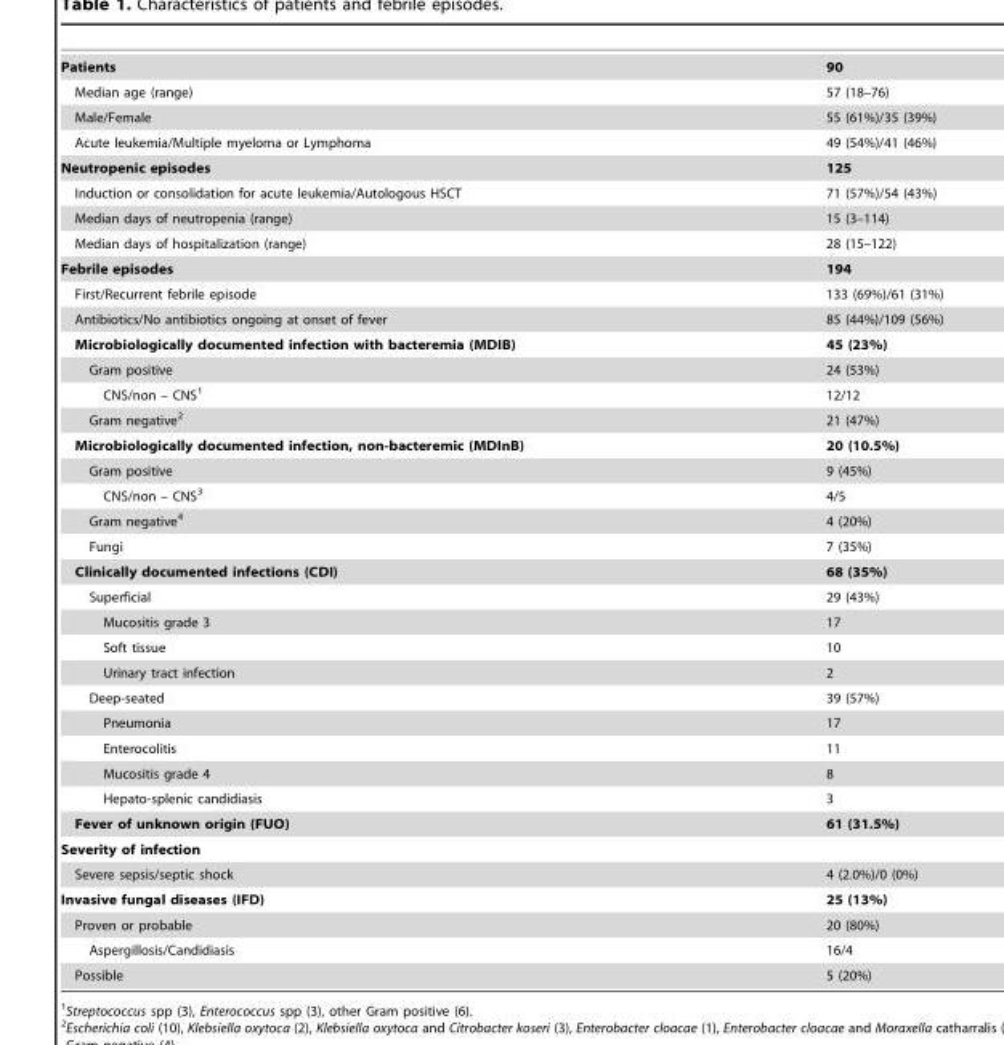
<table><tbody><tr><td>Patients</td><td>90</td></tr><tr><td>Median age (range)</td><td>57 (18–76)</td></tr><tr><td>Male/Female</td><td>55 (61%)/35 (39%)</td></tr><tr><td>Acute leukemia/Multiple myeloma or Lymphoma</td><td>49 (54%)/41 (46%)</td></tr><tr><td>Neutropenic episodes</td><td>125</td></tr><tr><td>Induction or consolidation for acute leukemia/Autologous HSCT</td><td>71 (57%)/54 (43%)</td></tr><tr><td>Median days of neutropenia (range)</td><td>15 (3–114)</td></tr><tr><td>Median days of hospitalization (range)</td><td>28 (15–122)</td></tr><tr><td>Febrile episodes</td><td>194</td></tr><tr><td>First/Recurrent febrile episode</td><td>133 (69%)/61 (31%)</td></tr><tr><td>Antibiotics/No antibiotics ongoing at onset of fever</td><td>85 (44%)/109 (56%)</td></tr><tr><td>Microbiologically documented infection with bacteremia (MDIB)</td><td>45 (23%)</td></tr><tr><td>Gram positive</td><td>24 (53%)</td></tr><tr><td>CNS/non – CNS<sup>1</sup></td><td>12/12</td></tr><tr><td>Gram negative<sup>2</sup></td><td>21 (47%)</td></tr><tr><td>Microbiologically documented infection, non-bacteremic (MDInB)</td><td>20 (10.5%)</td></tr><tr><td>Gram positive</td><td>9 (45%)</td></tr><tr><td>CNS/non – CNS<sup>3</sup></td><td>4/5</td></tr><tr><td>Gram negative<sup>4</sup></td><td>4 (20%)</td></tr><tr><td>Fungi</td><td>7 (35%)</td></tr><tr><td>Clinically documented infections (CDI)</td><td>68 (35%)</td></tr><tr><td>Superficial</td><td>29 (43%)</td></tr><tr><td>Mucositis grade 3</td><td>17</td></tr><tr><td>Soft tissue</td><td>10</td></tr><tr><td>Urinary tract infection</td><td>2</td></tr><tr><td>Deep-seated</td><td>39 (57%)</td></tr><tr><td>Pneumonia</td><td>17</td></tr><tr><td>Enterocolitis</td><td>11</td></tr><tr><td>Mucositis grade 4</td><td>8</td></tr><tr><td>Hepato-splenic candidiasis</td><td>3</td></tr><tr><td>Fever of unknown origin (FUO)</td><td>61 (31.5%)</td></tr><tr><td colspan="2">Severity of infection</td></tr><tr><td>Severe sepsis/septic shock</td><td>4 (2.0%)/0 (0%)</td></tr><tr><td>Invasive fungal diseases (IFD)</td><td>25 (13%)</td></tr><tr><td>Proven or probable</td><td>20 (80%)</td></tr><tr><td>Aspergillosis/Candidiasis</td><td>16/4</td></tr><tr><td>Possible</td><td>5 (20%)</td></tr></tbody></table>